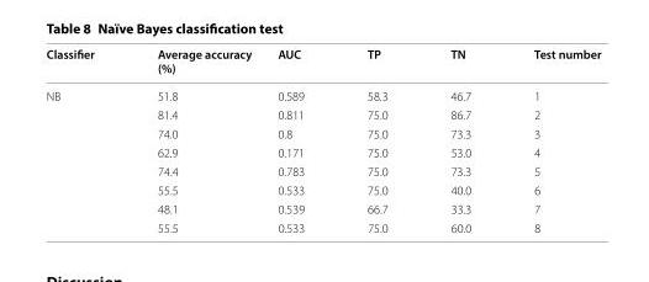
<table><thead><tr><td>Classifier</td><td>Average accuracy (%)</td><td>AUC</td><td>TP</td><td>TN</td><td>Test number</td></tr></thead><tbody><tr><td rowspan="8">NB</td><td>51.8</td><td>0.589</td><td>58.3</td><td>46.7</td><td>1</td></tr><tr><td>81.4</td><td>0.811</td><td>75.0</td><td>86.7</td><td>2</td></tr><tr><td>74.0</td><td>0.8</td><td>75.0</td><td>73.3</td><td>3</td></tr><tr><td>62.9</td><td>0.171</td><td>75.0</td><td>53.0</td><td>4</td></tr><tr><td>74.4</td><td>0.783</td><td>75.0</td><td>73.3</td><td>5</td></tr><tr><td>55.5</td><td>0.533</td><td>75.0</td><td>40.0</td><td>6</td></tr><tr><td>48.1</td><td>0.539</td><td>66.7</td><td>33.3</td><td>7</td></tr><tr><td>55.5</td><td>0.533</td><td>75.0</td><td>60.0</td><td>8</td></tr></tbody></table>